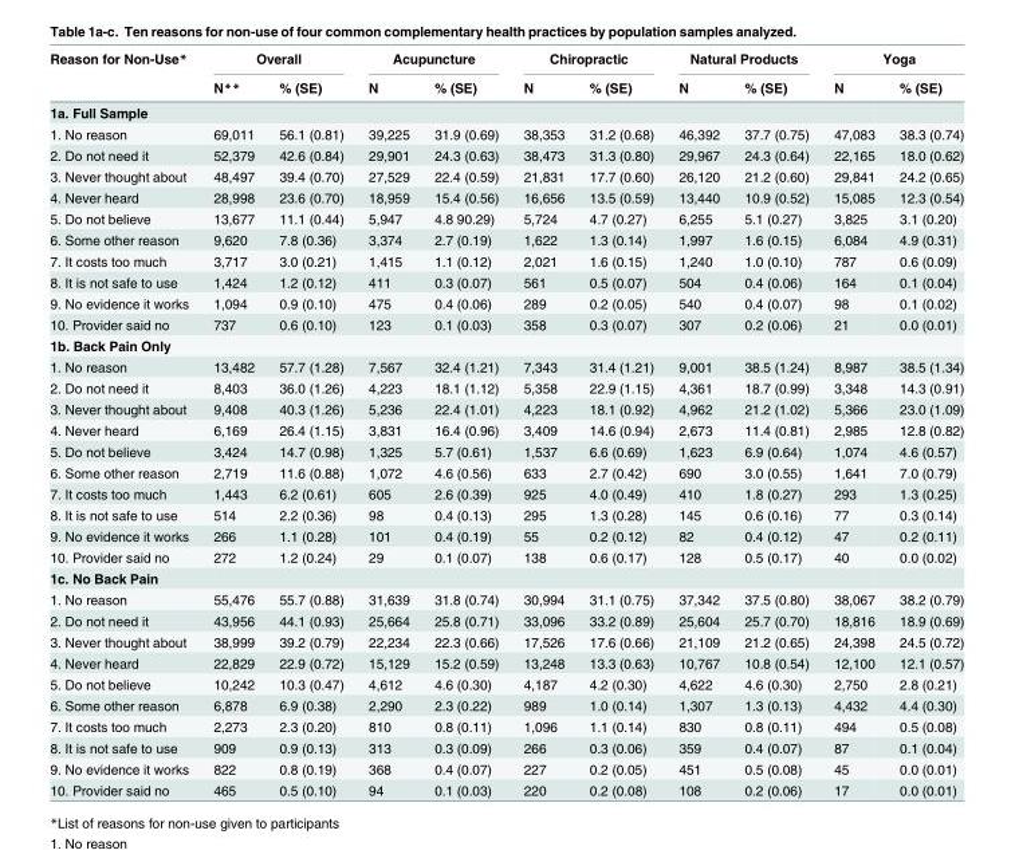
<table><thead><tr><td rowspan="2">Reason for Non-Use*</td><td colspan="2">Overall</td><td colspan="2">Acupuncture</td><td colspan="2">Chiropractic</td><td colspan="2">Natural Products</td><td colspan="2">Yoga</td></tr><tr><td>N**</td><td>% (SE)</td><td>N</td><td>% (SE)</td><td>N</td><td>% (SE)</td><td>N</td><td>% (SE)</td><td>N</td><td>% (SE)</td></tr></thead><tbody><tr><td colspan="11">1a. Full Sample</td></tr><tr><td>1. No reason</td><td>69,011</td><td>56.1 (0.81)</td><td>39,225</td><td>31.9 (0.69)</td><td>38,353</td><td>31.2 (0.68)</td><td>46,392</td><td>37.7 (0.75)</td><td>47,083</td><td>38.3 (0.74)</td></tr><tr><td>2. Do not need it</td><td>52,379</td><td>42.6 (0.84)</td><td>29,901</td><td>24.3 (0.63)</td><td>38,473</td><td>31.3 (0.80)</td><td>29,967</td><td>24.3 (0.64)</td><td>22,165</td><td>18.0 (0.62)</td></tr><tr><td>3. Never thought about</td><td>48,497</td><td>39.4 (0.70)</td><td>27,529</td><td>22.4 (0.59)</td><td>21,831</td><td>17.7 (0.60)</td><td>26,120</td><td>21.2 (0.60)</td><td>29,841</td><td>24.2 (0.65)</td></tr><tr><td>4. Never heard</td><td>28,998</td><td>23.6 (0.70)</td><td>18,959</td><td>15.4 (0.56)</td><td>16,656</td><td>13.5 (0.59)</td><td>13,440</td><td>10.9 (0.52)</td><td>15,085</td><td>12.3 (0.54)</td></tr><tr><td>5. Do not believe</td><td>13,677</td><td>11.1 (0.44)</td><td>5,947</td><td>4.8 90.29)</td><td>5,724</td><td>4.7 (0.27)</td><td>6,255</td><td>5.1 (0.27)</td><td>3,825</td><td>3.1 (0.20)</td></tr><tr><td>6. Some other reason</td><td>9,620</td><td>7.8 (0.36)</td><td>3,374</td><td>2.7 (0.19)</td><td>1,622</td><td>1.3 (0.14)</td><td>1,997</td><td>1.6 (0.15)</td><td>6,084</td><td>4.9 (0.31)</td></tr><tr><td>7. It costs too much</td><td>3,717</td><td>3.0 (0.21)</td><td>1,415</td><td>1.1 (0.12)</td><td>2,021</td><td>1.6 (0.15)</td><td>1,240</td><td>1.0 (0.10)</td><td>787</td><td>0.6 (0.09)</td></tr><tr><td>8. It is not safe to use</td><td>1,424</td><td>1.2 (0.12)</td><td>411</td><td>0.3 (0.07)</td><td>561</td><td>0.5 (0.07)</td><td>504</td><td>0.4 (0.06)</td><td>164</td><td>0.1 (0.04)</td></tr><tr><td>9. No evidence it works</td><td>1,094</td><td>0.9 (0.10)</td><td>475</td><td>0.4 (0.06)</td><td>289</td><td>0.2 (0.05)</td><td>540</td><td>0.4 (0.07)</td><td>98</td><td>0.1 (0.02)</td></tr><tr><td>10. Provider said no</td><td>737</td><td>0.6 (0.10)</td><td>123</td><td>0.1 (0.03)</td><td>358</td><td>0.3 (0.07)</td><td>307</td><td>0.2 (0.06)</td><td>21</td><td>0.0 (0.01)</td></tr><tr><td colspan="11">1b. Back Pain Only</td></tr><tr><td>1. No reason</td><td>13,482</td><td>57.7 (1.28)</td><td>7,567</td><td>32.4 (1.21)</td><td>7,343</td><td>31.4 (1.21)</td><td>9,001</td><td>38.5 (1.24)</td><td>8,987</td><td>38.5 (1.34)</td></tr><tr><td>2. Do not need it</td><td>8,403</td><td>36.0 (1.26)</td><td>4,223</td><td>18.1 (1.12)</td><td>5,358</td><td>22.9 (1.15)</td><td>4,361</td><td>18.7 (0.99)</td><td>3,348</td><td>14.3 (0.91)</td></tr><tr><td>3. Never thought about</td><td>9,408</td><td>40.3 (1.26)</td><td>5,236</td><td>22.4 (1.01)</td><td>4,223</td><td>18.1 (0.92)</td><td>4,962</td><td>21.2 (1.02)</td><td>5,366</td><td>23.0 (1.09)</td></tr><tr><td>4. Never heard</td><td>6,169</td><td>26.4 (1.15)</td><td>3,831</td><td>16.4 (0.96)</td><td>3,409</td><td>14.6 (0.94)</td><td>2,673</td><td>11.4 (0.81)</td><td>2,985</td><td>12.8 (0.82)</td></tr><tr><td>5. Do not believe</td><td>3,424</td><td>14.7 (0.98)</td><td>1,325</td><td>5.7 (0.61)</td><td>1,537</td><td>6.6 (0.69)</td><td>1,623</td><td>6.9 (0.64)</td><td>1,074</td><td>4.6 (0.57)</td></tr><tr><td>6. Some other reason</td><td>2,719</td><td>11.6 (0.88)</td><td>1,072</td><td>4.6 (0.56)</td><td>633</td><td>2.7 (0.42)</td><td>690</td><td>3.0 (0.55)</td><td>1,641</td><td>7.0 (0.79)</td></tr><tr><td>7. It costs too much</td><td>1,443</td><td>6.2 (0.61)</td><td>605</td><td>2.6 (0.39)</td><td>925</td><td>4.0 (0.49)</td><td>410</td><td>1.8 (0.27)</td><td>293</td><td>1.3 (0.25)</td></tr><tr><td>8. It is not safe to use</td><td>514</td><td>2.2 (0.36)</td><td>98</td><td>0.4 (0.13)</td><td>295</td><td>1.3 (0.28)</td><td>145</td><td>0.6 (0.16)</td><td>77</td><td>0.3 (0.14)</td></tr><tr><td>9. No evidence it works</td><td>266</td><td>1.1 (0.28)</td><td>101</td><td>0.4 (0.19)</td><td>55</td><td>0.2 (0.12)</td><td>82</td><td>0.4 (0.12)</td><td>47</td><td>0.2 (0.11)</td></tr><tr><td>10. Provider said no</td><td>272</td><td>1.2 (0.24)</td><td>29</td><td>0.1 (0.07)</td><td>138</td><td>0.6 (0.17)</td><td>128</td><td>0.5 (0.17)</td><td>40</td><td>0.0 (0.02)</td></tr><tr><td colspan="11">1c. No Back Pain</td></tr><tr><td>1. No reason</td><td>55,476</td><td>55.7 (0.88)</td><td>31,639</td><td>31.8 (0.74)</td><td>30,994</td><td>31.1 (0.75)</td><td>37,342</td><td>37.5 (0.80)</td><td>38,067</td><td>38.2 (0.79)</td></tr><tr><td>2. Do not need it</td><td>43,956</td><td>44.1 (0.93)</td><td>25,664</td><td>25.8 (0.71)</td><td>33,096</td><td>33.2 (0.89)</td><td>25,604</td><td>25.7 (0.70)</td><td>18,816</td><td>18.9 (0.69)</td></tr><tr><td>3. Never thought about</td><td>38,999</td><td>39.2 (0.79)</td><td>22,234</td><td>22.3 (0.66)</td><td>17,526</td><td>17.6 (0.66)</td><td>21,109</td><td>21.2 (0.65)</td><td>24,398</td><td>24.5 (0.72)</td></tr><tr><td>4. Never heard</td><td>22,829</td><td>22.9 (0.72)</td><td>15,129</td><td>15.2 (0.59)</td><td>13,248</td><td>13.3 (0.63)</td><td>10,767</td><td>10.8 (0.54)</td><td>12,100</td><td>12.1 (0.57)</td></tr><tr><td>5. Do not believe</td><td>10,242</td><td>10.3 (0.47)</td><td>4,612</td><td>4.6 (0.30)</td><td>4,187</td><td>4.2 (0.30)</td><td>4,622</td><td>4.6 (0.30)</td><td>2,750</td><td>2.8 (0.21)</td></tr><tr><td>6. Some other reason</td><td>6,878</td><td>6.9 (0.38)</td><td>2,290</td><td>2.3 (0.22)</td><td>989</td><td>1.0 (0.14)</td><td>1,307</td><td>1.3 (0.13)</td><td>4,432</td><td>4.4 (0.30)</td></tr><tr><td>7. It costs too much</td><td>2,273</td><td>2.3 (0.20)</td><td>810</td><td>0.8 (0.11)</td><td>1,096</td><td>1.1 (0.14)</td><td>830</td><td>0.8 (0.11)</td><td>494</td><td>0.5 (0.08)</td></tr><tr><td>8. It is not safe to use</td><td>909</td><td>0.9 (0.13)</td><td>313</td><td>0.3 (0.09)</td><td>266</td><td>0.3 (0.06)</td><td>359</td><td>0.4 (0.07)</td><td>87</td><td>0.1 (0.04)</td></tr><tr><td>9. No evidence it works</td><td>822</td><td>0.8 (0.19)</td><td>368</td><td>0.4 (0.07)</td><td>227</td><td>0.2 (0.05)</td><td>451</td><td>0.5 (0.08)</td><td>45</td><td>0.0 (0.01)</td></tr><tr><td>10. Provider said no</td><td>465</td><td>0.5 (0.10)</td><td>94</td><td>0.1 (0.03)</td><td>220</td><td>0.2 (0.08)</td><td>108</td><td>0.2 (0.06)</td><td>17</td><td>0.0 (0.01)</td></tr></tbody></table>